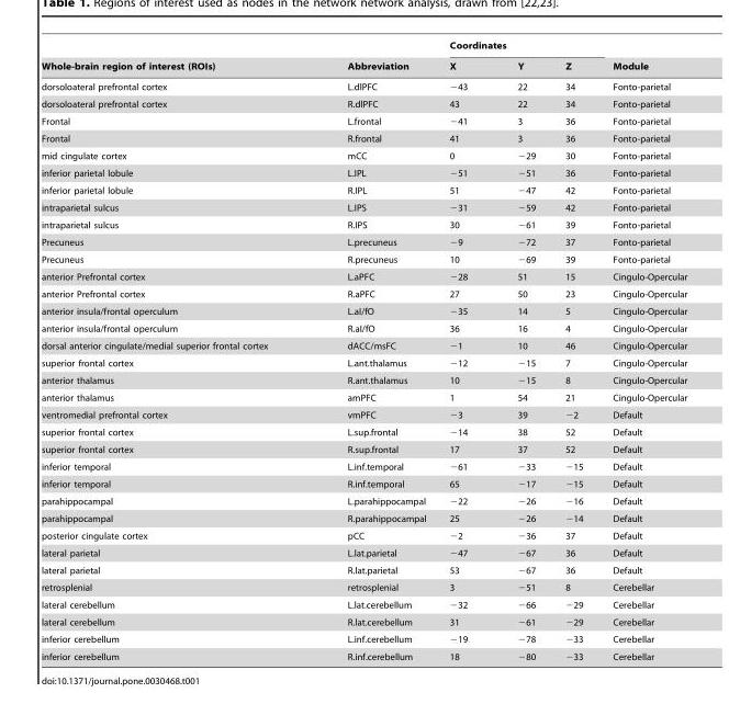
<table><thead><tr><td rowspan="2">Whole-brain region of interest (ROIs)</td><td rowspan="2">Abbreviation</td><td colspan="3">Coordinates</td><td rowspan="2">Module</td></tr><tr><td>X</td><td>Y</td><td>Z</td></tr></thead><tbody><tr><td>dorsoloateral prefrontal cortex</td><td>L.dlPFC</td><td>−43</td><td>22</td><td>34</td><td>Fonto-parietal</td></tr><tr><td>dorsoloateral prefrontal cortex</td><td>R.dlPFC</td><td>43</td><td>22</td><td>34</td><td>Fonto-parietal</td></tr><tr><td>Frontal</td><td>L.frontal</td><td>−41</td><td>3</td><td>36</td><td>Fonto-parietal</td></tr><tr><td>Frontal</td><td>R.frontal</td><td>41</td><td>3</td><td>36</td><td>Fonto-parietal</td></tr><tr><td>mid cingulate cortex</td><td>mCC</td><td>0</td><td>−29</td><td>30</td><td>Fonto-parietal</td></tr><tr><td>inferior parietal lobule</td><td>L.IPL</td><td>−51</td><td>−51</td><td>36</td><td>Fonto-parietal</td></tr><tr><td>inferior parietal lobule</td><td>R.IPL</td><td>51</td><td>−47</td><td>42</td><td>Fonto-parietal</td></tr><tr><td>intraparietal sulcus</td><td>L.IPS</td><td>−31</td><td>−59</td><td>42</td><td>Fonto-parietal</td></tr><tr><td>intraparietal sulcus</td><td>R.IPS</td><td>30</td><td>−61</td><td>39</td><td>Fonto-parietal</td></tr><tr><td>Precuneus</td><td>L.precuneus</td><td>−9</td><td>−72</td><td>37</td><td>Fonto-parietal</td></tr><tr><td>Precuneus</td><td>R.precuneus</td><td>10</td><td>−69</td><td>39</td><td>Fonto-parietal</td></tr><tr><td>anterior Prefrontal cortex</td><td>L.aPFC</td><td>−28</td><td>51</td><td>15</td><td>Cingulo-Opercular</td></tr><tr><td>anterior Prefrontal cortex</td><td>R.aPFC</td><td>27</td><td>50</td><td>23</td><td>Cingulo-Opercular</td></tr><tr><td>anterior insula/frontal operculum</td><td>L.aI/fO</td><td>−35</td><td>14</td><td>5</td><td>Cingulo-Opercular</td></tr><tr><td>anterior insula/frontal operculum</td><td>R.aI/fO</td><td>36</td><td>16</td><td>4</td><td>Cingulo-Opercular</td></tr><tr><td>dorsal anterior cingulate/medial superior frontal cortex</td><td>dACC/msFC</td><td>−1</td><td>10</td><td>46</td><td>Cingulo-Opercular</td></tr><tr><td>superior frontal cortex</td><td>L.ant.thalamus</td><td>−12</td><td>−15</td><td>7</td><td>Cingulo-Opercular</td></tr><tr><td>anterior thalamus</td><td>R.ant.thalamus</td><td>10</td><td>−15</td><td>8</td><td>Cingulo-Opercular</td></tr><tr><td>anterior thalamus</td><td>amPFC</td><td>1</td><td>54</td><td>21</td><td>Cingulo-Opercular</td></tr><tr><td>ventromedial prefrontal cortex</td><td>vmPFC</td><td>−3</td><td>39</td><td>−2</td><td>Default</td></tr><tr><td>superior frontal cortex</td><td>L.sup.frontal</td><td>−14</td><td>38</td><td>52</td><td>Default</td></tr><tr><td>superior frontal cortex</td><td>R.sup.frontal</td><td>17</td><td>37</td><td>52</td><td>Default</td></tr><tr><td>inferior temporal</td><td>L.inf.temporal</td><td>−61</td><td>−33</td><td>−15</td><td>Default</td></tr><tr><td>inferior temporal</td><td>R.inf.temporal</td><td>65</td><td>−17</td><td>−15</td><td>Default</td></tr><tr><td>parahippocampal</td><td>L.parahippocampal</td><td>−22</td><td>−26</td><td>−16</td><td>Default</td></tr><tr><td>parahippocampal</td><td>R.parahippocampal</td><td>25</td><td>−26</td><td>−14</td><td>Default</td></tr><tr><td>posterior cingulate cortex</td><td>pCC</td><td>−2</td><td>−36</td><td>37</td><td>Default</td></tr><tr><td>lateral parietal</td><td>L.lat.parietal</td><td>−47</td><td>−67</td><td>36</td><td>Default</td></tr><tr><td>lateral parietal</td><td>R.lat.parietal</td><td>53</td><td>−67</td><td>36</td><td>Default</td></tr><tr><td>retrosplenial</td><td>retrosplenial</td><td>3</td><td>−51</td><td>8</td><td>Cerebellar</td></tr><tr><td>lateral cerebellum</td><td>L.lat.cerebellum</td><td>−32</td><td>−66</td><td>−29</td><td>Cerebellar</td></tr><tr><td>lateral cerebellum</td><td>R.lat.cerebellum</td><td>31</td><td>−61</td><td>−29</td><td>Cerebellar</td></tr><tr><td>inferior cerebellum</td><td>L.inf.cerebellum</td><td>−19</td><td>−78</td><td>−33</td><td>Cerebellar</td></tr><tr><td>inferior cerebellum</td><td>R.inf.cerebellum</td><td>18</td><td>−80</td><td>−33</td><td>Cerebellar</td></tr></tbody></table>